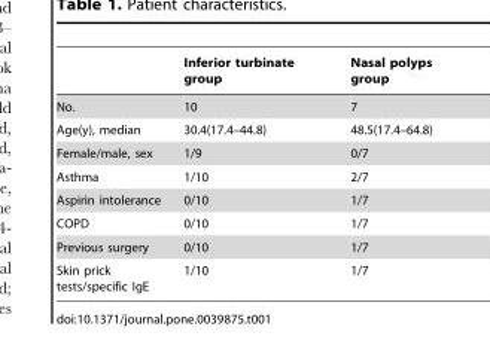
<table><thead><tr><td></td><td>Inferior turbinate group</td><td>Nasal polyps group</td></tr></thead><tbody><tr><td>No.</td><td>10</td><td>7</td></tr><tr><td>Age(y), median</td><td>30.4(17.4–44.8)</td><td>48.5(17.4–64.8)</td></tr><tr><td>Female/male, sex</td><td>1/9</td><td>0/7</td></tr><tr><td>Asthma</td><td>1/10</td><td>2/7</td></tr><tr><td>Aspirin intolerance</td><td>0/10</td><td>1/7</td></tr><tr><td>COPD</td><td>0/10</td><td>1/7</td></tr><tr><td>Previous surgery</td><td>0/10</td><td>1/7</td></tr><tr><td>Skin prick tests/specific IgE</td><td>1/10</td><td>1/7</td></tr></tbody></table>